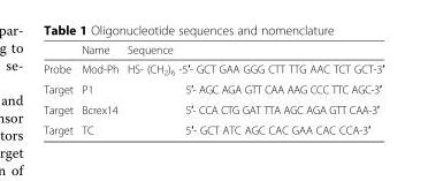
<table><thead><tr><td></td><td>Name</td><td>Sequence</td></tr></thead><tbody><tr><td>Probe</td><td>Mod-Ph</td><td>HS- (CH<sub>2</sub>)<sub>6</sub> -5′- GCT GAA GGG CTT TTG AAC TCT GCT-3′</td></tr><tr><td>Target</td><td>P1</td><td>5′- AGC AGA GTT CAA AAG СCC TTC AGC-3′</td></tr><tr><td>Target</td><td>Bcrex14</td><td>5′- CCA CTG GAT TTA AGC AGA GTT CAA-3′</td></tr><tr><td>Target</td><td>TC</td><td>5′- GCT ATC AGC CAC GAA CAC CCA-3′</td></tr></tbody></table>